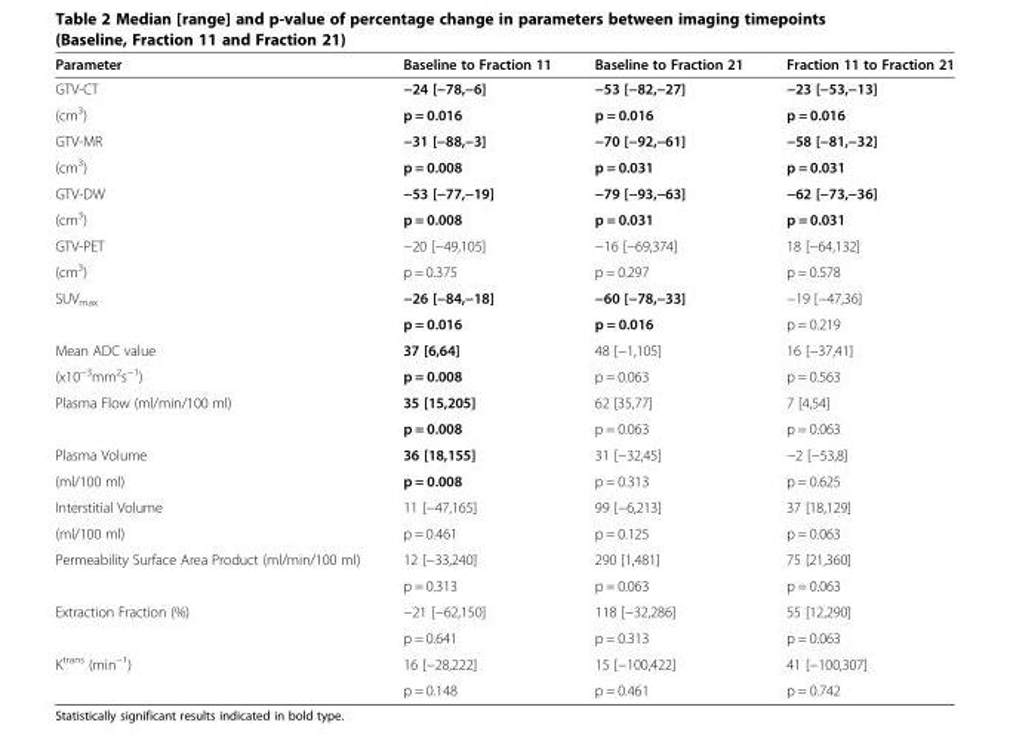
<table><thead><tr><td>Parameter</td><td>Baseline to Fraction 11</td><td>Baseline to Fraction 21</td><td>Fraction 11 to Fraction 21</td></tr></thead><tbody><tr><td>GTV-CT</td><td>−24 [−78,−6]</td><td>−53 [−82,−27]</td><td>−23 [−53,−13]</td></tr><tr><td>(cm<sup>3</sup>)</td><td>p = 0.016</td><td>p = 0.016</td><td>p = 0.016</td></tr><tr><td>GTV-MR</td><td>−31 [−88,−3]</td><td>−70 [−92,−61]</td><td>−58 [−81,−32]</td></tr><tr><td>(cm<sup>3</sup>)</td><td>p = 0.008</td><td>p = 0.031</td><td>p = 0.031</td></tr><tr><td>GTV-DW</td><td>−53 [−77,−19]</td><td>−79 [−93,−63]</td><td>−62 [−73,−36]</td></tr><tr><td>(cm<sup>3</sup>)</td><td>p = 0.008</td><td>p = 0.031</td><td>p = 0.031</td></tr><tr><td>GTV-PET</td><td>−20 [−49,105]</td><td>−16 [−69,374]</td><td>18 [−64,132]</td></tr><tr><td>(cm<sup>3</sup>)</td><td>p = 0.375</td><td>p = 0.297</td><td>p = 0.578</td></tr><tr><td rowspan="2">SUV<sub>max</sub></td><td>−26 [−84,−18]</td><td>−60 [−78,−33]</td><td>−19 [−47,36]</td></tr><tr><td>p = 0.016</td><td>p = 0.016</td><td>p = 0.219</td></tr><tr><td>Mean ADC value</td><td>37 [6,64]</td><td>48 [−1,105]</td><td>16 [−37,41]</td></tr><tr><td>(x10<sup>−3</sup>mm<sup>2</sup>s<sup>−1</sup>)</td><td>p = 0.008</td><td>p = 0.063</td><td>p = 0.563</td></tr><tr><td rowspan="2">Plasma Flow (ml/min/100 ml)</td><td>35 [15,205]</td><td>62 [35,77]</td><td>7 [4,54]</td></tr><tr><td>p = 0.008</td><td>p = 0.063</td><td>p = 0.063</td></tr><tr><td>Plasma Volume</td><td>36 [18,155]</td><td>31 [−32,45]</td><td>−2 [−53,8]</td></tr><tr><td>(ml/100 ml)</td><td>p = 0.008</td><td>p = 0.313</td><td>p = 0.625</td></tr><tr><td>Interstitial Volume</td><td>11 [−47,165]</td><td>99 [−6,213]</td><td>37 [18,129]</td></tr><tr><td>(ml/100 ml)</td><td>p = 0.461</td><td>p = 0.125</td><td>p = 0.063</td></tr><tr><td rowspan="2">Permeability Surface Area Product (ml/min/100 ml)</td><td>12 [−33,240]</td><td>290 [1,481]</td><td>75 [21,360]</td></tr><tr><td>p = 0.313</td><td>p = 0.063</td><td>p = 0.063</td></tr><tr><td rowspan="2">Extraction Fraction (%)</td><td>−21 [−62,150]</td><td>118 [−32,286]</td><td>55 [12,290]</td></tr><tr><td>p = 0.641</td><td>p = 0.313</td><td>p = 0.063</td></tr><tr><td rowspan="2">K<sup>trans</sup> (min<sup>−1</sup>)</td><td>16 [−28,222]</td><td>15 [−100,422]</td><td>41 [−100,307]</td></tr><tr><td>p = 0.148</td><td>p = 0.461</td><td>p = 0.742</td></tr></tbody></table>